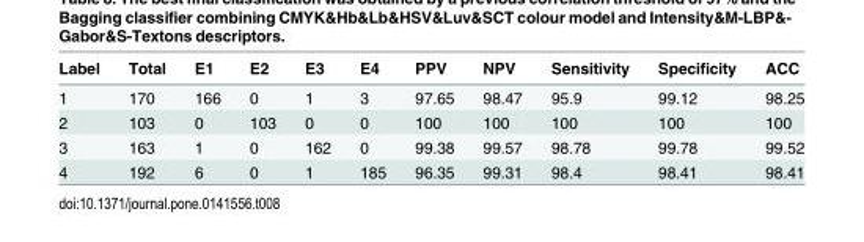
<table><thead><tr><td>Label</td><td>Total</td><td>E1</td><td>E2</td><td>E3</td><td>E4</td><td>PPV</td><td>NPV</td><td>Sensitivity</td><td>Specificity</td><td>ACC</td></tr></thead><tbody><tr><td>1</td><td>170</td><td>166</td><td>0</td><td>1</td><td>3</td><td>97.65</td><td>98.47</td><td>95.9</td><td>99.12</td><td>98.25</td></tr><tr><td>2</td><td>103</td><td>0</td><td>103</td><td>0</td><td>0</td><td>100</td><td>100</td><td>100</td><td>100</td><td>100</td></tr><tr><td>3</td><td>163</td><td>1</td><td>0</td><td>162</td><td>0</td><td>99.38</td><td>99.57</td><td>98.78</td><td>99.78</td><td>99.52</td></tr><tr><td>4</td><td>192</td><td>6</td><td>0</td><td>1</td><td>185</td><td>96.35</td><td>99.31</td><td>98.4</td><td>98.41</td><td>98.41</td></tr></tbody></table>